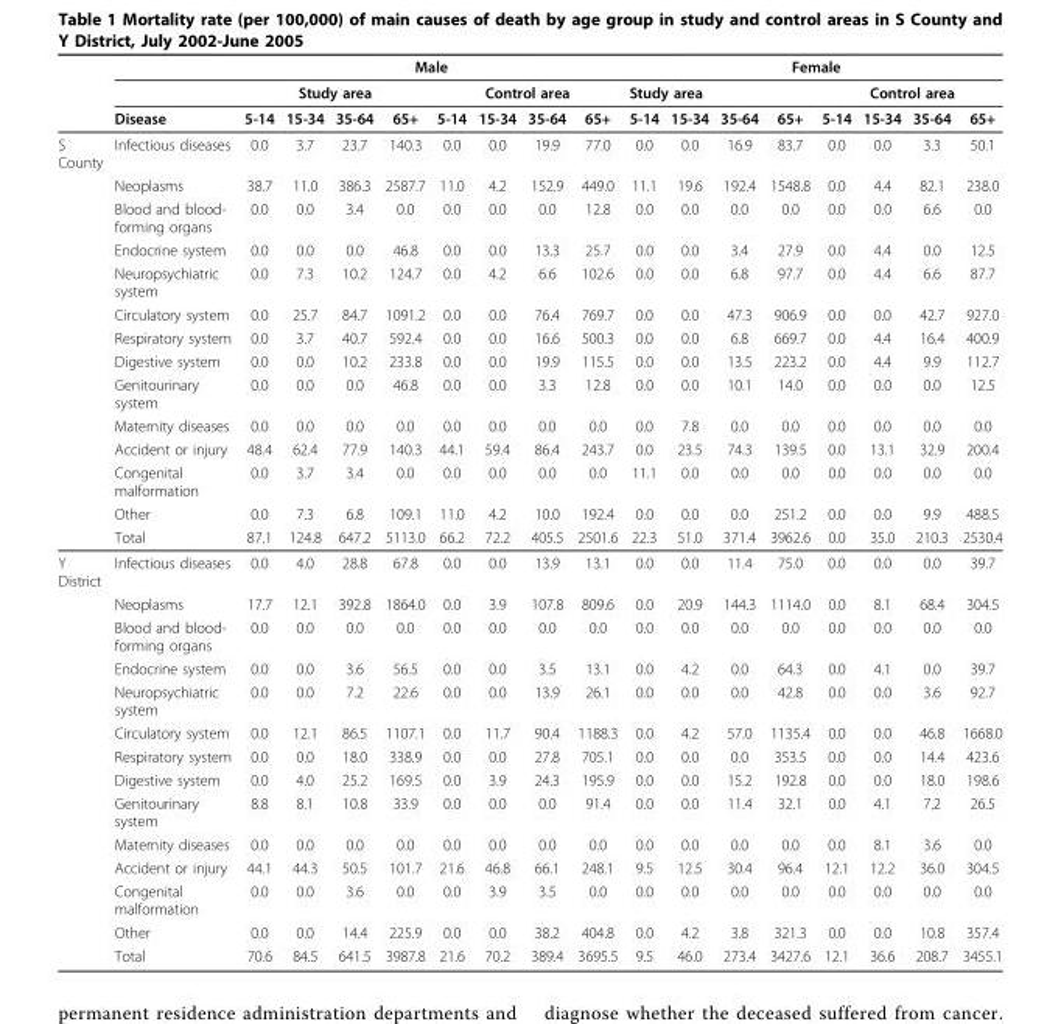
<table><thead><tr><td rowspan="3"></td><td rowspan="3">Disease</td><td colspan="8">Male</td><td colspan="8">Female</td></tr><tr><td colspan="4">Study area</td><td colspan="4">Control area</td><td colspan="4">Study area</td><td colspan="4">Control area</td></tr><tr><td>5-14</td><td>15-34</td><td>35-64</td><td>65+</td><td>5-14</td><td>15-34</td><td>35-64</td><td>65+</td><td>5-14</td><td>15-34</td><td>35-64</td><td>65+</td><td>5-14</td><td>15-34</td><td>35-64</td><td>65+</td></tr></thead><tbody><tr><td rowspan="14">S County</td><td>Infectious diseases</td><td>0.0</td><td>3.7</td><td>23.7</td><td>140.3</td><td>0.0</td><td>0.0</td><td>19.9</td><td>77.0</td><td>0.0</td><td>0.0</td><td>16.9</td><td>83.7</td><td>0.0</td><td>0.0</td><td>3.3</td><td>50.1</td></tr><tr><td>Neoplasms</td><td>38.7</td><td>11.0</td><td>386.3</td><td>2587.7</td><td>11.0</td><td>4.2</td><td>152.9</td><td>449.0</td><td>11.1</td><td>19.6</td><td>192.4</td><td>1548.8</td><td>0.0</td><td>4.4</td><td>82.1</td><td>238.0</td></tr><tr><td>Blood and blood- forming organs</td><td>0.0</td><td>0.0</td><td>3.4</td><td>0.0</td><td>0.0</td><td>0.0</td><td>0.0</td><td>12.8</td><td>0.0</td><td>0.0</td><td>0.0</td><td>0.0</td><td>0.0</td><td>0.0</td><td>6.6</td><td>0.0</td></tr><tr><td>Endocrine system</td><td>0.0</td><td>0.0</td><td>0.0</td><td>46.8</td><td>0.0</td><td>0.0</td><td>13.3</td><td>25.7</td><td>0.0</td><td>0.0</td><td>3.4</td><td>27.9</td><td>0.0</td><td>4.4</td><td>0.0</td><td>12.5</td></tr><tr><td>Neuropsychiatric system</td><td>0.0</td><td>7.3</td><td>10.2</td><td>124.7</td><td>0.0</td><td>4.2</td><td>6.6</td><td>102.6</td><td>0.0</td><td>0.0</td><td>6.8</td><td>97.7</td><td>0.0</td><td>4.4</td><td>6.6</td><td>87.7</td></tr><tr><td>Circulatory system</td><td>0.0</td><td>25.7</td><td>84.7</td><td>1091.2</td><td>0.0</td><td>0.0</td><td>76.4</td><td>769.7</td><td>0.0</td><td>0.0</td><td>47.3</td><td>906.9</td><td>0.0</td><td>0.0</td><td>42.7</td><td>927.0</td></tr><tr><td>Respiratory system</td><td>0.0</td><td>3.7</td><td>40.7</td><td>592.4</td><td>0.0</td><td>0.0</td><td>16.6</td><td>500.3</td><td>0.0</td><td>0.0</td><td>6.8</td><td>669.7</td><td>0.0</td><td>4.4</td><td>16.4</td><td>400.9</td></tr><tr><td>Digestive system</td><td>0.0</td><td>0.0</td><td>10.2</td><td>233.8</td><td>0.0</td><td>0.0</td><td>19.9</td><td>115.5</td><td>0.0</td><td>0.0</td><td>13.5</td><td>223.2</td><td>0.0</td><td>4.4</td><td>9.9</td><td>112.7</td></tr><tr><td>Genitourinary system</td><td>0.0</td><td>0.0</td><td>0.0</td><td>46.8</td><td>0.0</td><td>0.0</td><td>3.3</td><td>12.8</td><td>0.0</td><td>0.0</td><td>10.1</td><td>14.0</td><td>0.0</td><td>0.0</td><td>0.0</td><td>12.5</td></tr><tr><td>Maternity diseases</td><td>0.0</td><td>0.0</td><td>0.0</td><td>0.0</td><td>0.0</td><td>0.0</td><td>0.0</td><td>0.0</td><td>0.0</td><td>7.8</td><td>0.0</td><td>0.0</td><td>0.0</td><td>0.0</td><td>0.0</td><td>0.0</td></tr><tr><td>Accident or injury</td><td>48.4</td><td>62.4</td><td>77.9</td><td>140.3</td><td>44.1</td><td>59.4</td><td>86.4</td><td>243.7</td><td>0.0</td><td>23.5</td><td>74.3</td><td>139.5</td><td>0.0</td><td>13.1</td><td>32.9</td><td>200.4</td></tr><tr><td>Congenital malformation</td><td>0.0</td><td>3.7</td><td>3.4</td><td>0.0</td><td>0.0</td><td>0.0</td><td>0.0</td><td>0.0</td><td>11.1</td><td>0.0</td><td>0.0</td><td>0.0</td><td>0.0</td><td>0.0</td><td>0.0</td><td>0.0</td></tr><tr><td>Other</td><td>0.0</td><td>7.3</td><td>6.8</td><td>109.1</td><td>11.0</td><td>4.2</td><td>10.0</td><td>192.4</td><td>0.0</td><td>0.0</td><td>0.0</td><td>251.2</td><td>0.0</td><td>0.0</td><td>9.9</td><td>488.5</td></tr><tr><td>Total</td><td>87.1</td><td>124.8</td><td>647.2</td><td>5113.0</td><td>66.2</td><td>72.2</td><td>405.5</td><td>2501.6</td><td>22.3</td><td>51.0</td><td>371.4</td><td>3962.6</td><td>0.0</td><td>35.0</td><td>210.3</td><td>2530.4</td></tr><tr><td rowspan="14">Y District</td><td>Infectious diseases</td><td>0.0</td><td>4.0</td><td>28.8</td><td>67.8</td><td>0.0</td><td>0.0</td><td>13.9</td><td>13.1</td><td>0.0</td><td>0.0</td><td>11.4</td><td>75.0</td><td>0.0</td><td>0.0</td><td>0.0</td><td>39.7</td></tr><tr><td>Neoplasms</td><td>17.7</td><td>12.1</td><td>392.8</td><td>1864.0</td><td>0.0</td><td>3.9</td><td>107.8</td><td>809.6</td><td>0.0</td><td>20.9</td><td>144.3</td><td>1114.0</td><td>0.0</td><td>8.1</td><td>68.4</td><td>304.5</td></tr><tr><td>Blood and blood- forming organs</td><td>0.0</td><td>0.0</td><td>0.0</td><td>0.0</td><td>0.0</td><td>0.0</td><td>0.0</td><td>0.0</td><td>0.0</td><td>0.0</td><td>0.0</td><td>0.0</td><td>0.0</td><td>0.0</td><td>0.0</td><td>0.0</td></tr><tr><td>Endocrine system</td><td>0.0</td><td>0.0</td><td>3.6</td><td>56.5</td><td>0.0</td><td>0.0</td><td>3.5</td><td>13.1</td><td>0.0</td><td>4.2</td><td>0.0</td><td>64.3</td><td>0.0</td><td>4.1</td><td>0.0</td><td>39.7</td></tr><tr><td>Neuropsychiatric system</td><td>0.0</td><td>0.0</td><td>7.2</td><td>22.6</td><td>0.0</td><td>0.0</td><td>13.9</td><td>26.1</td><td>0.0</td><td>0.0</td><td>0.0</td><td>42.8</td><td>0.0</td><td>0.0</td><td>3.6</td><td>92.7</td></tr><tr><td>Circulatory system</td><td>0.0</td><td>12.1</td><td>86.5</td><td>1107.1</td><td>0.0</td><td>11.7</td><td>90.4</td><td>1188.3</td><td>0.0</td><td>4.2</td><td>57.0</td><td>1135.4</td><td>0.0</td><td>0.0</td><td>46.8</td><td>1668.0</td></tr><tr><td>Respiratory system</td><td>0.0</td><td>0.0</td><td>18.0</td><td>338.9</td><td>0.0</td><td>0.0</td><td>27.8</td><td>705.1</td><td>0.0</td><td>0.0</td><td>0.0</td><td>353.5</td><td>0.0</td><td>0.0</td><td>14.4</td><td>423.6</td></tr><tr><td>Digestive system</td><td>0.0</td><td>4.0</td><td>25.2</td><td>169.5</td><td>0.0</td><td>3.9</td><td>24.3</td><td>195.9</td><td>0.0</td><td>0.0</td><td>15.2</td><td>192.8</td><td>0.0</td><td>0.0</td><td>18.0</td><td>198.6</td></tr><tr><td>Genitourinary system</td><td>8.8</td><td>8.1</td><td>10.8</td><td>33.9</td><td>0.0</td><td>0.0</td><td>0.0</td><td>91.4</td><td>0.0</td><td>0.0</td><td>11.4</td><td>32.1</td><td>0.0</td><td>4.1</td><td>7.2</td><td>26.5</td></tr><tr><td>Maternity diseases</td><td>0.0</td><td>0.0</td><td>0.0</td><td>0.0</td><td>0.0</td><td>0.0</td><td>0.0</td><td>0.0</td><td>0.0</td><td>0.0</td><td>0.0</td><td>0.0</td><td>0.0</td><td>8.1</td><td>3.6</td><td>0.0</td></tr><tr><td>Accident or injury</td><td>44.1</td><td>44.3</td><td>50.5</td><td>101.7</td><td>21.6</td><td>46.8</td><td>66.1</td><td>248.1</td><td>9.5</td><td>12.5</td><td>30.4</td><td>96.4</td><td>12.1</td><td>12.2</td><td>36.0</td><td>304.5</td></tr><tr><td>Congenital malformation</td><td>0.0</td><td>0.0</td><td>3.6</td><td>0.0</td><td>0.0</td><td>3.9</td><td>3.5</td><td>0.0</td><td>0.0</td><td>0.0</td><td>0.0</td><td>0.0</td><td>0.0</td><td>0.0</td><td>0.0</td><td>0.0</td></tr><tr><td>Other</td><td>0.0</td><td>0.0</td><td>14.4</td><td>225.9</td><td>0.0</td><td>0.0</td><td>38.2</td><td>404.8</td><td>0.0</td><td>4.2</td><td>3.8</td><td>321.3</td><td>0.0</td><td>0.0</td><td>10.8</td><td>357.4</td></tr><tr><td>Total</td><td>70.6</td><td>84.5</td><td>641.5</td><td>3987.8</td><td>21.6</td><td>70.2</td><td>389.4</td><td>3695.5</td><td>9.5</td><td>46.0</td><td>273.4</td><td>3427.6</td><td>12.1</td><td>36.6</td><td>208.7</td><td>3455.1</td></tr></tbody></table>